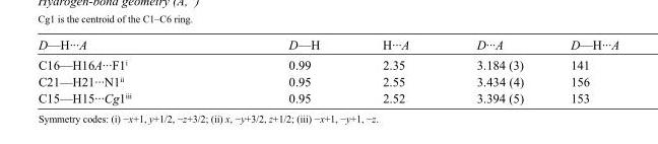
<table><tbody><tr><td>D—H···A</td><td>D—H</td><td>H···A</td><td>D···A</td><td>D—H···A</td></tr><tr><td>C16—H16A···F1<sup>i</sup></td><td>0.99</td><td>2.35</td><td>3.184 (3)</td><td>141</td></tr><tr><td>C21—H21···N1<sup>ii</sup></td><td>0.95</td><td>2.55</td><td>3.434 (4)</td><td>156</td></tr><tr><td>C15—H15···Cg1<sup>iii</sup></td><td>0.95</td><td>2.52</td><td>3.394 (5)</td><td>153</td></tr></tbody></table>